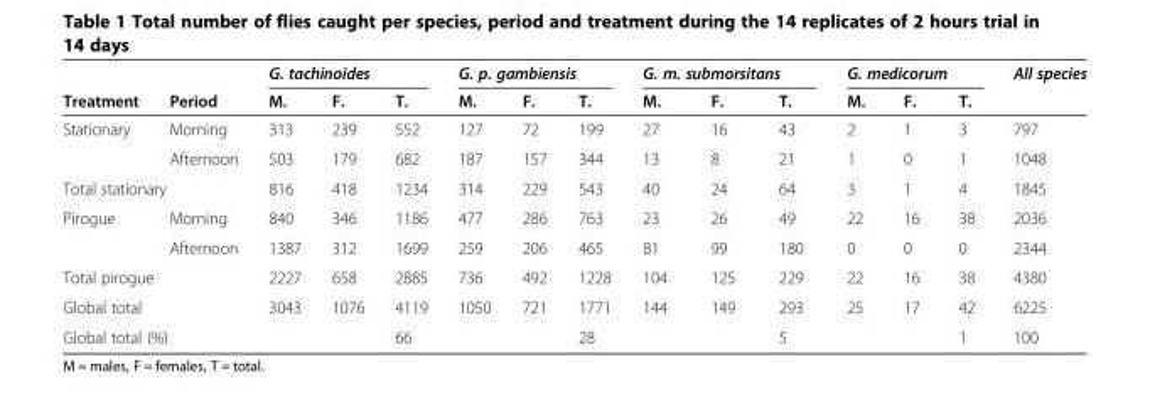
<table><thead><tr><td rowspan="2">Treatment</td><td rowspan="2">Period</td><td colspan="3">G. tachinoides</td><td colspan="3">G. p. gambiensis</td><td colspan="3">G. m. submorsitans</td><td colspan="3">G. medicorum</td><td rowspan="2">All species</td></tr><tr><td>M.</td><td>F.</td><td>T.</td><td>M.</td><td>F.</td><td>T.</td><td>M.</td><td>F.</td><td>T.</td><td>M.</td><td>F.</td><td>T.</td></tr></thead><tbody><tr><td rowspan="2">Stationary</td><td>Morning</td><td>313</td><td>239</td><td>552</td><td>127</td><td>72</td><td>199</td><td>27</td><td>16</td><td>43</td><td>2</td><td>1</td><td>3</td><td>797</td></tr><tr><td>Afternoon</td><td>503</td><td>179</td><td>682</td><td>187</td><td>157</td><td>344</td><td>13</td><td>8</td><td>21</td><td>1</td><td>0</td><td>1</td><td>1048</td></tr><tr><td colspan="2">Total stationary</td><td>816</td><td>418</td><td>1234</td><td>314</td><td>229</td><td>543</td><td>40</td><td>24</td><td>64</td><td>3</td><td>1</td><td>4</td><td>1845</td></tr><tr><td rowspan="2">Pirogue</td><td>Morning</td><td>840</td><td>346</td><td>1186</td><td>477</td><td>286</td><td>763</td><td>23</td><td>26</td><td>49</td><td>22</td><td>16</td><td>38</td><td>2036</td></tr><tr><td>Afternoon</td><td>1387</td><td>312</td><td>1699</td><td>259</td><td>206</td><td>465</td><td>81</td><td>99</td><td>180</td><td>0</td><td>0</td><td>0</td><td>2344</td></tr><tr><td colspan="2">Total pirogue</td><td>2227</td><td>658</td><td>2885</td><td>736</td><td>492</td><td>1228</td><td>104</td><td>125</td><td>229</td><td>22</td><td>16</td><td>38</td><td>4380</td></tr><tr><td colspan="2">Global total</td><td>3043</td><td>1076</td><td>4119</td><td>1050</td><td>721</td><td>1771</td><td>144</td><td>149</td><td>293</td><td>25</td><td>17</td><td>42</td><td>6225</td></tr><tr><td colspan="2">Global total (%)</td><td></td><td></td><td>66</td><td></td><td></td><td>28</td><td></td><td></td><td>5</td><td></td><td></td><td>1</td><td>100</td></tr></tbody></table>